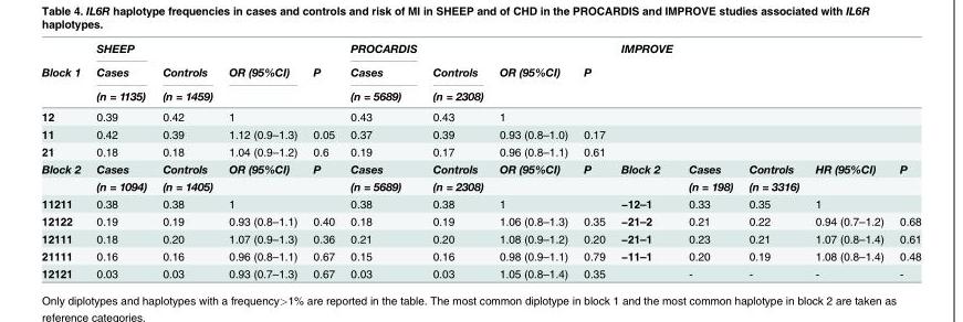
<table><thead><tr><td rowspan="3">Block 1</td><td rowspan="3">SHEEP Cases (n = 1135)</td><td rowspan="3">Controls (n = 1459)</td><td rowspan="3">OR (95%CI)</td><td rowspan="3">P</td><td rowspan="3">PROCARDIS Cases (n = 5689)</td><td rowspan="3">Controls (n = 2308)</td><td rowspan="3">OR (95%CI)</td><td rowspan="3">P</td><td rowspan="3">IMPROVE</td><td rowspan="3"></td><td rowspan="3"></td><td rowspan="3"></td><td rowspan="3"></td></tr><tr></tr><tr></tr></thead><tbody><tr><td>12</td><td>0.39</td><td>0.42</td><td>1</td><td></td><td>0.43</td><td>0.43</td><td>1</td><td></td><td></td><td></td><td></td><td></td><td></td></tr><tr><td>11</td><td>0.42</td><td>0.39</td><td>1.12 (0.9–1.3)</td><td>0.05</td><td>0.37</td><td>0.39</td><td>0.93 (0.8–1.0)</td><td>0.17</td><td></td><td></td><td></td><td></td><td></td></tr><tr><td>21</td><td>0.18</td><td>0.18</td><td>1.04 (0.9–1.2)</td><td>0.6</td><td>0.19</td><td>0.17</td><td>0.96 (0.8–1.1)</td><td>0.61</td><td></td><td></td><td></td><td></td><td></td></tr><tr><td rowspan="2">Block 2</td><td>Cases</td><td>Controls</td><td>OR (95%CI)</td><td>P</td><td>Cases</td><td>Controls</td><td>OR (95%CI)</td><td>P</td><td>Block 2</td><td>Cases</td><td>Controls</td><td>HR (95%CI)</td><td>P</td></tr><tr><td>(n = 1094)</td><td>(n = 1405)</td><td></td><td></td><td>(n = 5689)</td><td>(n = 2308)</td><td></td><td></td><td></td><td>(n = 198)</td><td>(n = 3316)</td><td></td><td></td></tr><tr><td>11211</td><td>0.38</td><td>0.38</td><td>1</td><td></td><td>0.38</td><td>0.38</td><td>1</td><td></td><td>−12–1</td><td>0.33</td><td>0.35</td><td>1</td><td></td></tr><tr><td>12122</td><td>0.19</td><td>0.19</td><td>0.93 (0.8–1.1)</td><td>0.40</td><td>0.18</td><td>0.19</td><td>1.06 (0.8–1.3)</td><td>0.35</td><td>−21–2</td><td>0.21</td><td>0.22</td><td>0.94 (0.7–1.2)</td><td>0.68</td></tr><tr><td>12111</td><td>0.18</td><td>0.20</td><td>1.07 (0.9–1.3)</td><td>0.36</td><td>0.21</td><td>0.20</td><td>1.08 (0.9–1.2)</td><td>0.20</td><td>−21–1</td><td>0.23</td><td>0.21</td><td>1.07 (0.8–1.4)</td><td>0.61</td></tr><tr><td>21111</td><td>0.16</td><td>0.16</td><td>0.96 (0.8–1.1)</td><td>0.67</td><td>0.15</td><td>0.16</td><td>0.98 (0.9–1.1)</td><td>0.79</td><td>−11–1</td><td>0.20</td><td>0.19</td><td>1.08 (0.8–1.4)</td><td>0.48</td></tr><tr><td>12121</td><td>0.03</td><td>0.03</td><td>0.93 (0.7–1.3)</td><td>0.67</td><td>0.03</td><td>0.03</td><td>1.05 (0.8–1.4)</td><td>0.35</td><td></td><td>-</td><td>-</td><td>-</td><td>-</td></tr></tbody></table>